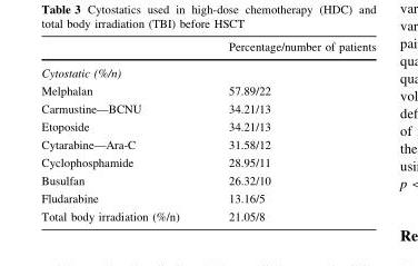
<table><thead><tr><td></td><td>Percentage/number of patients</td></tr></thead><tbody><tr><td colspan="2">Cytostatic (%/n)</td></tr><tr><td>Melphalan</td><td>57.89/22</td></tr><tr><td>Carmustine—BCNU</td><td>34.21/13</td></tr><tr><td>Etoposide</td><td>34.21/13</td></tr><tr><td>Cytarabine—Ara-C</td><td>31.58/12</td></tr><tr><td>Cyclophosphamide</td><td>28.95/11</td></tr><tr><td>Busulfan</td><td>26.32/10</td></tr><tr><td>Fludarabine</td><td>13.16/5</td></tr><tr><td>Total body irradiation (%/n)</td><td>21.05/8</td></tr></tbody></table>